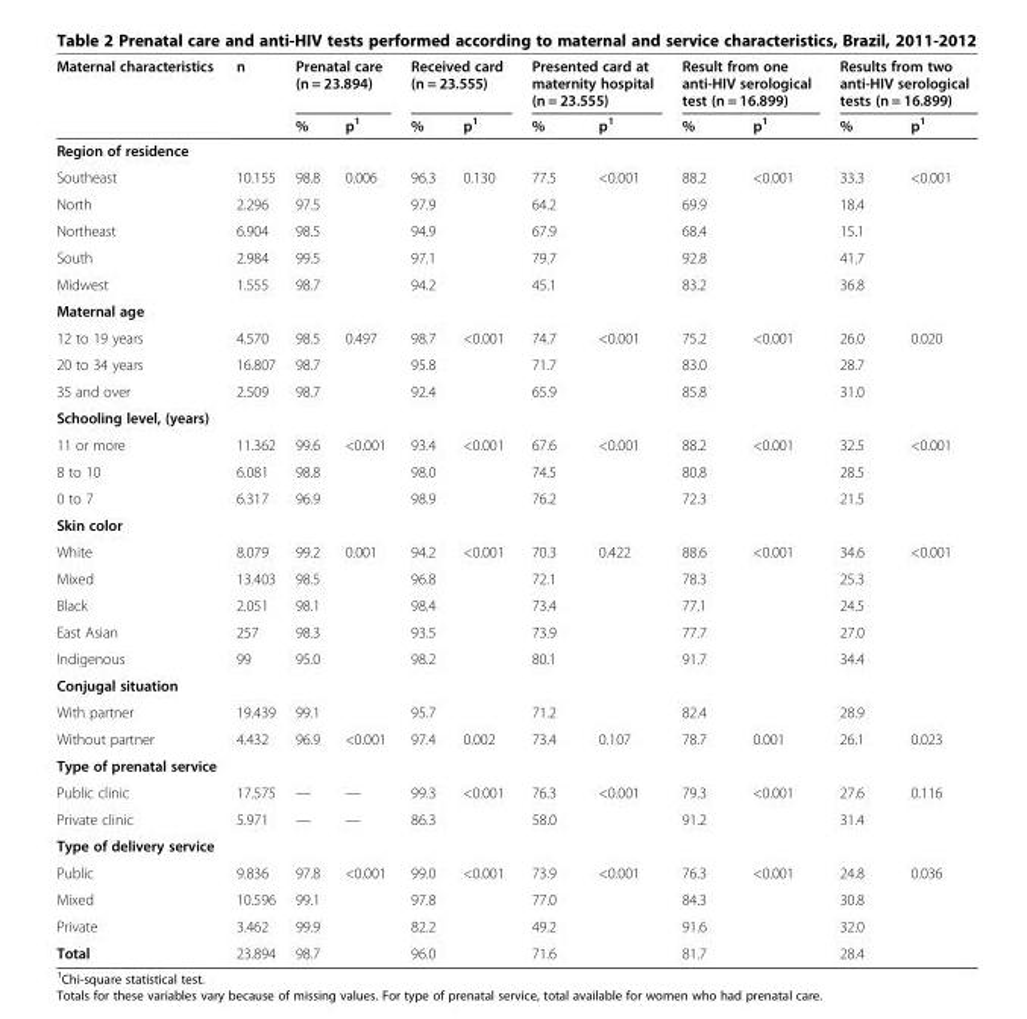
<table><thead><tr><td rowspan="2">Maternal characteristics</td><td rowspan="2">n</td><td colspan="2">Prenatal care (n = 23.894)</td><td colspan="2">Received card (n = 23.555)</td><td colspan="2">Presented card at maternity hospital (n = 23.555)</td><td colspan="2">Result from one anti-HIV serological test (n = 16.899)</td><td colspan="2">Results from two anti-HIV serological tests (n = 16.899)</td></tr><tr><td>%</td><td>p<sup>1</sup></td><td>%</td><td>p<sup>1</sup></td><td>%</td><td>p<sup>1</sup></td><td>%</td><td>p<sup>1</sup></td><td>%</td><td>p<sup>1</sup></td></tr></thead><tbody><tr><td colspan="12">Region of residence</td></tr><tr><td>Southeast</td><td>10.155</td><td>98.8</td><td rowspan="5">0.006</td><td>96.3</td><td rowspan="5">0.130</td><td>77.5</td><td rowspan="5">&lt;0.001</td><td>88.2</td><td rowspan="5">&lt;0.001</td><td>33.3</td><td rowspan="5">&lt;0.001</td></tr><tr><td>North</td><td>2.296</td><td>97.5</td><td>97.9</td><td>64.2</td><td>69.9</td><td>18.4</td></tr><tr><td>Northeast</td><td>6.904</td><td>98.5</td><td>94.9</td><td>67.9</td><td>68.4</td><td>15.1</td></tr><tr><td>South</td><td>2.984</td><td>99.5</td><td>97.1</td><td>79.7</td><td>92.8</td><td>41.7</td></tr><tr><td>Midwest</td><td>1.555</td><td>98.7</td><td>94.2</td><td>45.1</td><td>83.2</td><td>36.8</td></tr><tr><td colspan="12">Maternal age</td></tr><tr><td>12 to 19 years</td><td>4.570</td><td>98.5</td><td rowspan="3">0.497</td><td>98.7</td><td rowspan="3">&lt;0.001</td><td>74.7</td><td rowspan="3">&lt;0.001</td><td>75.2</td><td rowspan="3">&lt;0.001</td><td>26.0</td><td rowspan="3">0.020</td></tr><tr><td>20 to 34 years</td><td>16.807</td><td>98.7</td><td>95.8</td><td>71.7</td><td>83.0</td><td>28.7</td></tr><tr><td>35 and over</td><td>2.509</td><td>98.7</td><td>92.4</td><td>65.9</td><td>85.8</td><td>31.0</td></tr><tr><td colspan="12">Schooling level, (years)</td></tr><tr><td>11 or more</td><td>11.362</td><td>99.6</td><td rowspan="3">&lt;0.001</td><td>93.4</td><td rowspan="3">&lt;0.001</td><td>67.6</td><td rowspan="3">&lt;0.001</td><td>88.2</td><td rowspan="3">&lt;0.001</td><td>32.5</td><td rowspan="3">&lt;0.001</td></tr><tr><td>8 to 10</td><td>6.081</td><td>98.8</td><td>98.0</td><td>74.5</td><td>80.8</td><td>28.5</td></tr><tr><td>0 to 7</td><td>6.317</td><td>96.9</td><td>98.9</td><td>76.2</td><td>72.3</td><td>21.5</td></tr><tr><td colspan="12">Skin color</td></tr><tr><td>White</td><td>8.079</td><td>99.2</td><td rowspan="5">0.001</td><td>94.2</td><td rowspan="5">&lt;0.001</td><td>70.3</td><td rowspan="5">0.422</td><td>88.6</td><td rowspan="5">&lt;0.001</td><td>34.6</td><td rowspan="5">&lt;0.001</td></tr><tr><td>Mixed</td><td>13.403</td><td>98.5</td><td>96.8</td><td>72.1</td><td>78.3</td><td>25.3</td></tr><tr><td>Black</td><td>2.051</td><td>98.1</td><td>98.4</td><td>73.4</td><td>77.1</td><td>24.5</td></tr><tr><td>East Asian</td><td>257</td><td>98.3</td><td>93.5</td><td>73.9</td><td>77.7</td><td>27.0</td></tr><tr><td>Indigenous</td><td>99</td><td>95.0</td><td>98.2</td><td>80.1</td><td>91.7</td><td>34.4</td></tr><tr><td colspan="12">Conjugal situation</td></tr><tr><td>With partner</td><td>19.439</td><td>99.1</td><td></td><td>95.7</td><td></td><td>71.2</td><td></td><td>82.4</td><td></td><td>28.9</td><td></td></tr><tr><td>Without partner</td><td>4.432</td><td>96.9</td><td>&lt;0.001</td><td>97.4</td><td>0.002</td><td>73.4</td><td>0.107</td><td>78.7</td><td>0.001</td><td>26.1</td><td>0.023</td></tr><tr><td colspan="12">Type of prenatal service</td></tr><tr><td>Public clinic</td><td>17.575</td><td>—</td><td>—</td><td>99.3</td><td rowspan="2">&lt;0.001</td><td>76.3</td><td rowspan="2">&lt;0.001</td><td>79.3</td><td rowspan="2">&lt;0.001</td><td>27.6</td><td rowspan="2">0.116</td></tr><tr><td>Private clinic</td><td>5.971</td><td>—</td><td>—</td><td>86.3</td><td>58.0</td><td>91.2</td><td>31.4</td></tr><tr><td colspan="12">Type of delivery service</td></tr><tr><td>Public</td><td>9.836</td><td>97.8</td><td rowspan="3">&lt;0.001</td><td>99.0</td><td rowspan="3">&lt;0.001</td><td>73.9</td><td rowspan="3">&lt;0.001</td><td>76.3</td><td rowspan="3">&lt;0.001</td><td>24.8</td><td rowspan="3">0.036</td></tr><tr><td>Mixed</td><td>10.596</td><td>99.1</td><td>97.8</td><td>77.0</td><td>84.3</td><td>30.8</td></tr><tr><td>Private</td><td>3.462</td><td>99.9</td><td>82.2</td><td>49.2</td><td>91.6</td><td>32.0</td></tr><tr><td>Total</td><td>23.894</td><td>98.7</td><td></td><td>96.0</td><td></td><td>71.6</td><td></td><td>81.7</td><td></td><td>28.4</td><td></td></tr></tbody></table>